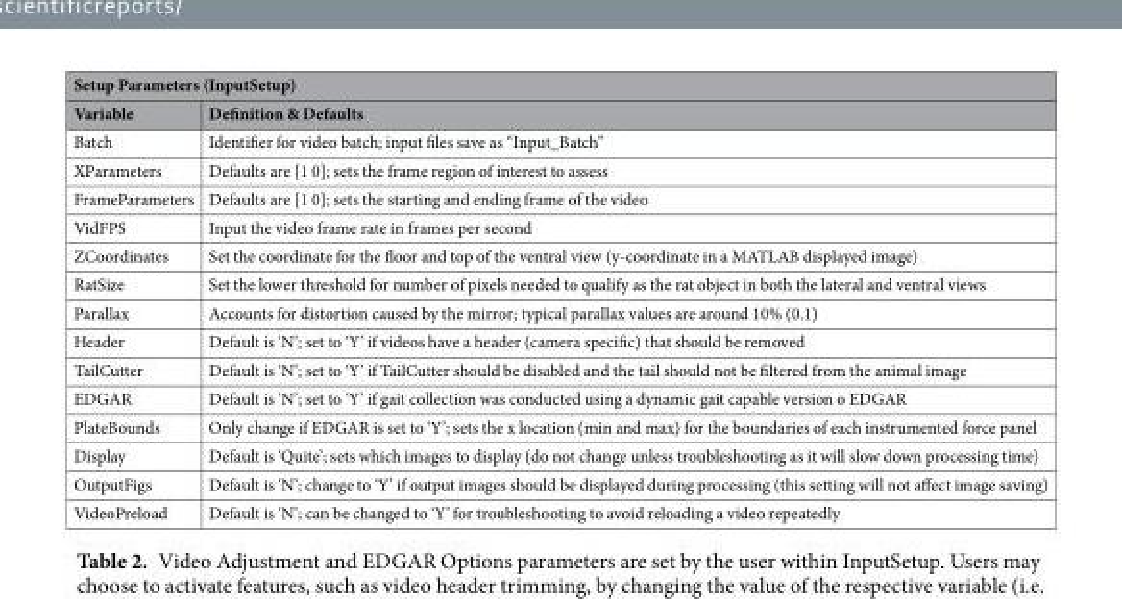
<table><thead><tr><td colspan="2">Setup Parameters (InputSetup)</td></tr><tr><td>Variable</td><td>Definition &amp; Defaults</td></tr></thead><tbody><tr><td>Batch</td><td>Identifier for video batch; input files save as “Input_Batch”</td></tr><tr><td>XParameters</td><td>Defaults are [1 0]; sets the frame region of interest to assess</td></tr><tr><td>FrameParameters</td><td>Defaults are [1 0]; sets the starting and ending frame of the video</td></tr><tr><td>VidFPS</td><td>Input the video frame rate in frames per second</td></tr><tr><td>ZCoordinates</td><td>Set the coordinate for the floor and top of the ventral view (y-coordinate in a MATLAB displayed image)</td></tr><tr><td>RatSize</td><td>Set the lower threshold for number of pixels needed to qualify as the rat object in both the lateral and ventral views</td></tr><tr><td>Parallax</td><td>Accounts for distortion caused by the mirror; typical parallax values are around 10% (0.1)</td></tr><tr><td>Header</td><td>Default is ‘N’; set to ‘Y’ if videos have a header (camera specific) that should be removed</td></tr><tr><td>TailCutter</td><td>Default is ‘N’; set to ‘Y’ if TailCutter should be disabled and the tail should not be filtered from the animal image</td></tr><tr><td>EDGAR</td><td>Default is ‘N’; set to ‘Y’ if gait collection was conducted using a dynamic gait capable version o EDGAR</td></tr><tr><td>PlateBounds</td><td>Only change if EDGAR is set to ‘Y’; sets the x location (min and max) for the boundaries of each instrumented force panel</td></tr><tr><td>Display</td><td>Default is ‘Quite’; sets which images to display (do not change unless troubleshooting as it will slow down processing time)</td></tr><tr><td>OutputFigs</td><td>Default is ‘N’; change to ‘Y’ if output images should be displayed during processing (this setting will not affect image saving)</td></tr><tr><td>VideoPreload</td><td>Default is ‘N’; can be changed to ‘Y’ for troubleshooting to avoid reloading a video repeatedly</td></tr></tbody></table>